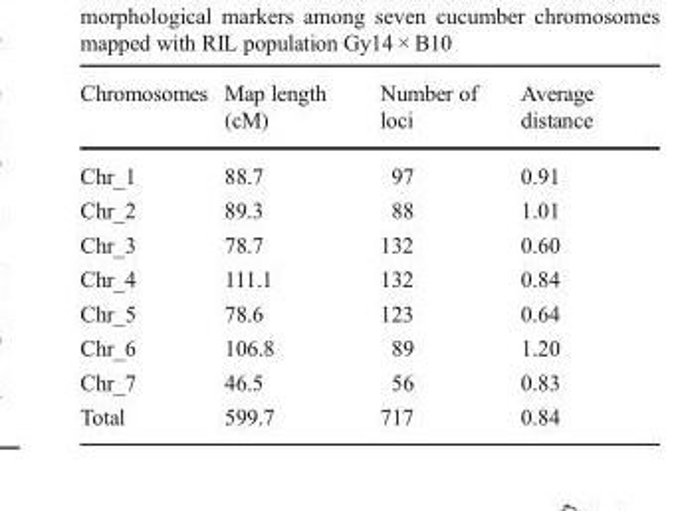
<table><thead><tr><td>Chromosomes</td><td>Map length (cM)</td><td>Number of loci</td><td>Average distance</td></tr></thead><tbody><tr><td>Chr_1</td><td>88.7</td><td>97</td><td>0.91</td></tr><tr><td>Chr_2</td><td>89.3</td><td>88</td><td>1.01</td></tr><tr><td>Chr_3</td><td>78.7</td><td>132</td><td>0.60</td></tr><tr><td>Chr_4</td><td>111.1</td><td>132</td><td>0.84</td></tr><tr><td>Chr_5</td><td>78.6</td><td>123</td><td>0.64</td></tr><tr><td>Chr_6</td><td>106.8</td><td>89</td><td>1.20</td></tr><tr><td>Chr_7</td><td>46.5</td><td>56</td><td>0.83</td></tr><tr><td>Total</td><td>599.7</td><td>717</td><td>0.84</td></tr></tbody></table>